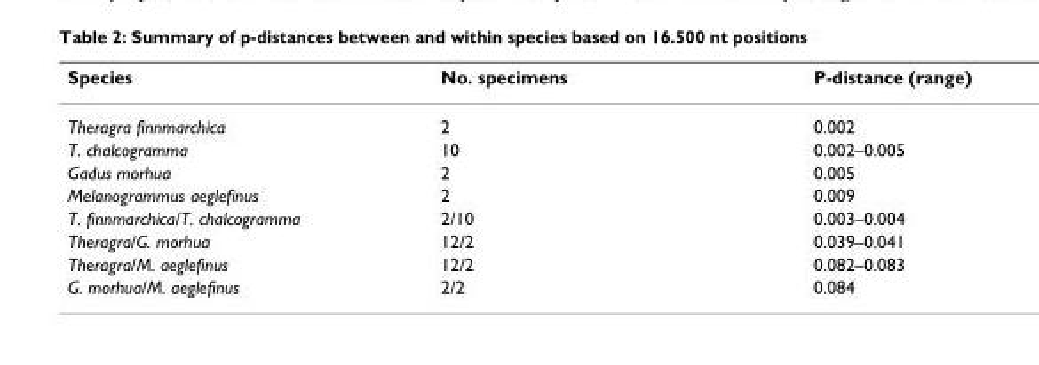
<table><thead><tr><td>Species</td><td>No. specimens</td><td>P-distance (range)</td></tr></thead><tbody><tr><td>Theragra finnmarchica</td><td>2</td><td>0.002</td></tr><tr><td>T. chalcogramma</td><td>10</td><td>0.002–0.005</td></tr><tr><td>Gadus morhua</td><td>2</td><td>0.005</td></tr><tr><td>Melanogrammus aeglefinus</td><td>2</td><td>0.009</td></tr><tr><td>T. finnmarchica/T. chalcogramma</td><td>2/10</td><td>0.003–0.004</td></tr><tr><td>Theragra/G. morhua</td><td>12/2</td><td>0.039–0.041</td></tr><tr><td>Theragra/M. aeglefinus</td><td>12/2</td><td>0.082–0.083</td></tr><tr><td>G. morhua/M. aeglefinus</td><td>2/2</td><td>0.084</td></tr></tbody></table>